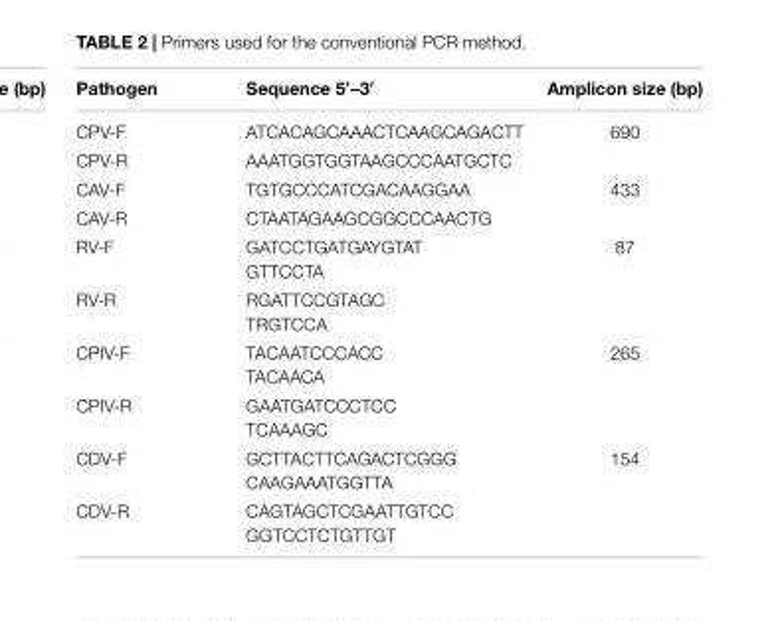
<table><thead><tr><td>Pathogen</td><td>Sequence 5′–3′</td><td>Amplicon size (bp)</td></tr></thead><tbody><tr><td>CPV-F</td><td>ATCACAGCAAACTCAAGCAGACTT</td><td>690</td></tr><tr><td>CPV-R</td><td>AAATGGTGGTAAGCCCAATGCTC</td><td></td></tr><tr><td>CAV-F</td><td>TGTGCCCATCGACAAGGAA</td><td>433</td></tr><tr><td>CAV-R</td><td>CTAATAGAAGCGGCCCAACTG</td><td></td></tr><tr><td>RV-F</td><td>GATCCTGATGAYGTAT GTTCCTA</td><td>87</td></tr><tr><td>RV-R</td><td>RGATTCCGTAGC TRGTCCA</td><td></td></tr><tr><td>CPIV-F</td><td>TACAATCCCACC TACAACA</td><td>265</td></tr><tr><td>CPIV-R</td><td>GAATGATCCCTCC TCAAAGC</td><td></td></tr><tr><td>CDV-F</td><td>GCTTACTTCAGACTCGGG CAAGAAATGGTTA</td><td>154</td></tr><tr><td>CDV-R</td><td>CAGTAGCTCGAATTGTCC GGTCCTCTGTTGT</td><td></td></tr></tbody></table>